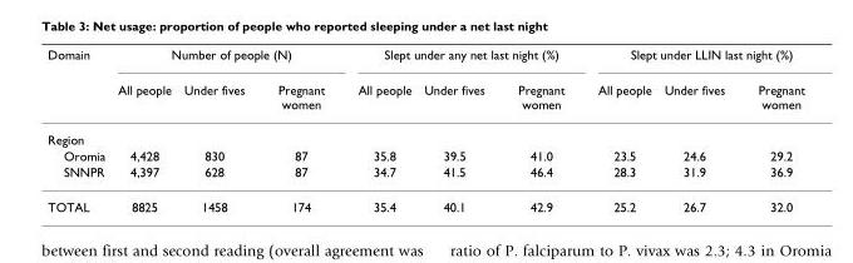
<table><thead><tr><td rowspan="2">Domain</td><td colspan="3">Number of people (N)</td><td colspan="3">Slept under any net last night (%)</td><td colspan="3">Slept under LLIN last night (%)</td></tr><tr><td>All people</td><td>Under fives</td><td>Pregnant women</td><td>All people</td><td>Under fives</td><td>Pregnant women</td><td>All people</td><td>Under fives</td><td>Pregnant women</td></tr></thead><tbody><tr><td colspan="10">Region</td></tr><tr><td>Oromia</td><td>4,428</td><td>830</td><td>87</td><td>35.8</td><td>39.5</td><td>41.0</td><td>23.5</td><td>24.6</td><td>29.2</td></tr><tr><td>SNNPR</td><td>4,397</td><td>628</td><td>87</td><td>34.7</td><td>41.5</td><td>46.4</td><td>28.3</td><td>31.9</td><td>36.9</td></tr><tr><td>TOTAL</td><td>8825</td><td>1458</td><td>174</td><td>35.4</td><td>40.1</td><td>42.9</td><td>25.2</td><td>26.7</td><td>32.0</td></tr></tbody></table>